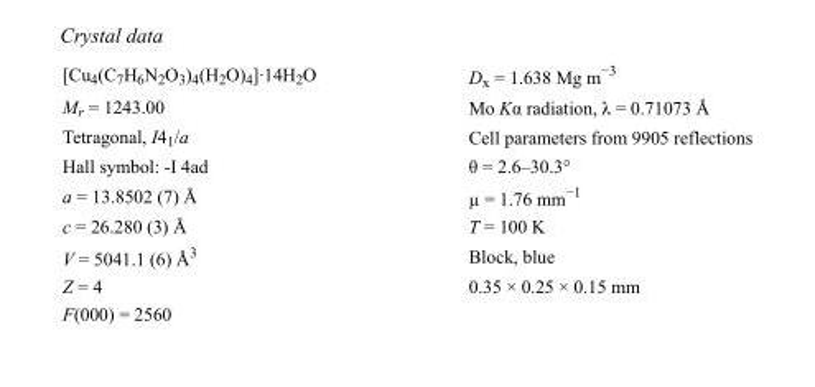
<table><tbody><tr><td>[Cu<sub>4</sub>(C<sub>7</sub>H<sub>6</sub>N<sub>2</sub>O<sub>3</sub>)<sub>4</sub>(H<sub>2</sub>O)<sub>4</sub>]·14H<sub>2</sub>O</td><td>D<sub>x</sub> = 1.638 Mg m<sup>−3</sup></td></tr><tr><td>M<sub>r</sub> = 1243.00</td><td>Mo Kα radiation, λ = 0.71073 Å</td></tr><tr><td>Tetragonal, I4<sub>1</sub>/a</td><td>Cell parameters from 9905 reflections</td></tr><tr><td>Hall symbol: -I 4ad</td><td>θ = 2.6–30.3°</td></tr><tr><td>a = 13.8502 (7) Å</td><td>µ = 1.76 mm<sup>−1</sup></td></tr><tr><td>c = 26.280 (3) Å</td><td>T = 100 K</td></tr><tr><td>V = 5041.1 (6) Å<sup>3</sup></td><td>Block, blue</td></tr><tr><td>Z = 4</td><td>0.35 × 0.25 × 0.15 mm</td></tr><tr><td>F(000) = 2560</td><td></td></tr></tbody></table>